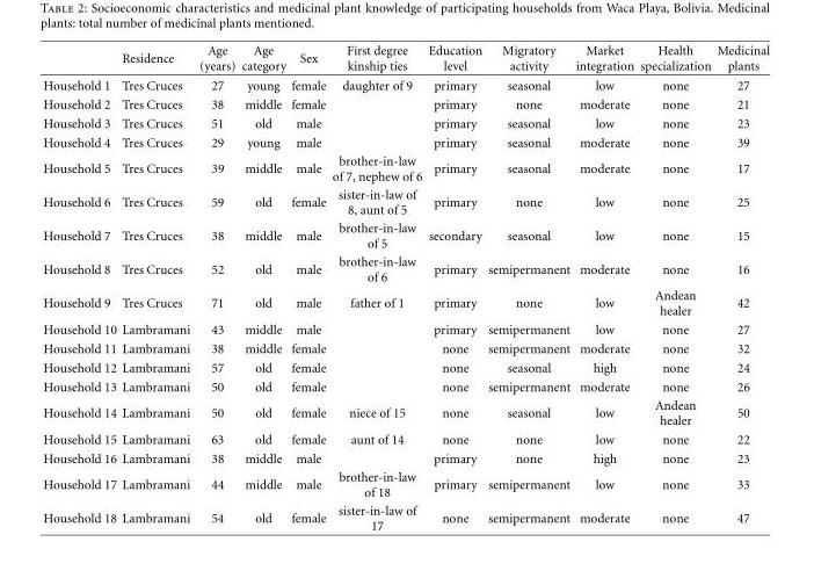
<table><thead><tr><td></td><td>Residence</td><td>Age (years)</td><td>Age category</td><td>Sex</td><td>First degree kinship ties</td><td>Education level</td><td>Migratory activity</td><td>Market integration</td><td>Health specialization</td><td>Medicinal plants</td></tr></thead><tbody><tr><td>Household 1</td><td>Tres Cruces</td><td>27</td><td>young</td><td>female</td><td>daughter of 9</td><td>primary</td><td>seasonal</td><td>low</td><td>none</td><td>27</td></tr><tr><td>Household 2</td><td>Tres Cruces</td><td>38</td><td>middle</td><td>female</td><td></td><td>primary</td><td>none</td><td>moderate</td><td>none</td><td>21</td></tr><tr><td>Household 3</td><td>Tres Cruces</td><td>51</td><td>old</td><td>male</td><td></td><td>primary</td><td>seasonal</td><td>low</td><td>none</td><td>23</td></tr><tr><td>Household 4</td><td>Tres Cruces</td><td>29</td><td>young</td><td>male</td><td></td><td>primary</td><td>seasonal</td><td>moderate</td><td>none</td><td>39</td></tr><tr><td>Household 5</td><td>Tres Cruces</td><td>39</td><td>middle</td><td>male</td><td>brother-in-law of 7, nephew of 6</td><td>primary</td><td>seasonal</td><td>moderate</td><td>none</td><td>17</td></tr><tr><td>Household 6</td><td>Tres Cruces</td><td>59</td><td>old</td><td>female</td><td>sister-in-law of 8, aunt of 5</td><td>primary</td><td>none</td><td>low</td><td>none</td><td>25</td></tr><tr><td>Household 7</td><td>Tres Cruces</td><td>38</td><td>middle</td><td>male</td><td>brother-in-law of 5</td><td>secondary</td><td>seasonal</td><td>low</td><td>none</td><td>15</td></tr><tr><td>Household 8</td><td>Tres Cruces</td><td>52</td><td>old</td><td>male</td><td>brother-in-law of 6</td><td>primary</td><td>semipermanent</td><td>moderate</td><td>none</td><td>16</td></tr><tr><td>Household 9</td><td>Tres Cruces</td><td>71</td><td>old</td><td>male</td><td>father of 1</td><td>primary</td><td>none</td><td>low</td><td>Andean healer</td><td>42</td></tr><tr><td>Household 10</td><td>Lambramani</td><td>43</td><td>middle</td><td>male</td><td></td><td>primary</td><td>semipermanent</td><td>low</td><td>none</td><td>27</td></tr><tr><td>Household 11</td><td>Lambramani</td><td>38</td><td>middle</td><td>female</td><td></td><td>none</td><td>semipermanent</td><td>moderate</td><td>none</td><td>32</td></tr><tr><td>Household 12</td><td>Lambramani</td><td>57</td><td>old</td><td>female</td><td></td><td>none</td><td>seasonal</td><td>high</td><td>none</td><td>24</td></tr><tr><td>Household 13</td><td>Lambramani</td><td>50</td><td>old</td><td>female</td><td></td><td>none</td><td>semipermanent</td><td>moderate</td><td>none</td><td>26</td></tr><tr><td>Household 14</td><td>Lambramani</td><td>50</td><td>old</td><td>female</td><td>niece of 15</td><td>none</td><td>seasonal</td><td>low</td><td>Andean healer</td><td>50</td></tr><tr><td>Household 15</td><td>Lambramani</td><td>63</td><td>old</td><td>female</td><td>aunt of 14</td><td>none</td><td>none</td><td>low</td><td>none</td><td>22</td></tr><tr><td>Household 16</td><td>Lambramani</td><td>38</td><td>middle</td><td>male</td><td></td><td>primary</td><td>none</td><td>high</td><td>none</td><td>23</td></tr><tr><td>Household 17</td><td>Lambramani</td><td>44</td><td>middle</td><td>male</td><td>brother-in-law of 18</td><td>primary</td><td>semipermanent</td><td>low</td><td>none</td><td>33</td></tr><tr><td>Household 18</td><td>Lambramani</td><td>54</td><td>old</td><td>female</td><td>sister-in-law of 17</td><td>none</td><td>semipermanent</td><td>moderate</td><td>none</td><td>47</td></tr></tbody></table>